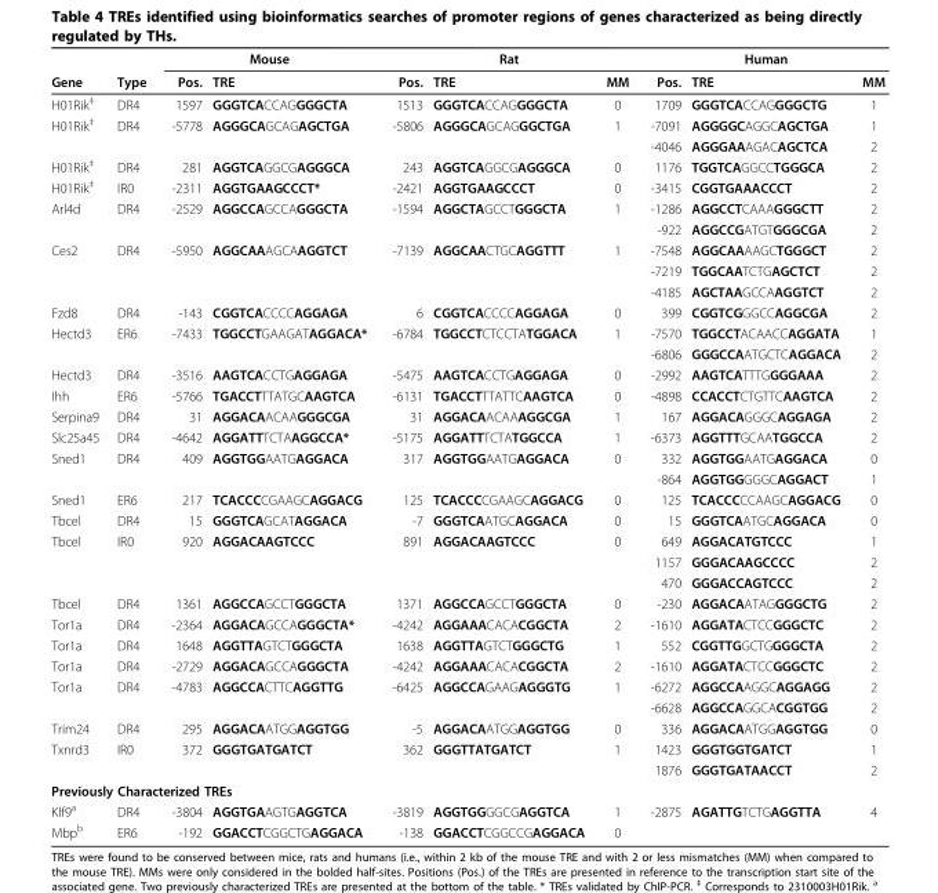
<table><thead><tr><td rowspan="2">Gene</td><td rowspan="2">Type</td><td colspan="2">Mouse</td><td colspan="3">Rat</td><td colspan="3">Human</td></tr><tr><td>Pos.</td><td>TRE</td><td>Pos.</td><td>TRE</td><td>MM</td><td>Pos.</td><td>TRE</td><td>MM</td></tr></thead><tbody><tr><td>H01Rik<sup>‡</sup></td><td>DR4</td><td>1597</td><td>GGGTCACCAGGGGCTA</td><td>1513</td><td>GGGTCACCAGGGGCTA</td><td>0</td><td>1709</td><td>GGGTCACCAGGGGCTG</td><td>1</td></tr><tr><td rowspan="2">H01Rik<sup>‡</sup></td><td>DR4</td><td>-5778</td><td>AGGGCAGCAGAGCTGA</td><td>-5806</td><td>AGGGCAGCAGGGCTGA</td><td>1</td><td>-7091</td><td>AGGGGCAGGCAGCTGA</td><td>1</td></tr><tr><td></td><td></td><td></td><td></td><td></td><td></td><td>-4046</td><td>AGGGAAAGACAGCTCA</td><td>2</td></tr><tr><td>H01Rik<sup>‡</sup></td><td>DR4</td><td>281</td><td>AGGTCAGGCGAGGGCA</td><td>243</td><td>AGGTCAGGCGAGGGCA</td><td>0</td><td>1176</td><td>TGGTCAGGCCTGGGCA</td><td>2</td></tr><tr><td>H01Rik<sup>‡</sup></td><td>IR0</td><td>-2311</td><td>AGGTGAAGCCCT*</td><td>-2421</td><td>AGGTGAAGCCCT</td><td>0</td><td>-3415</td><td>CGGTGAAACCCT</td><td>2</td></tr><tr><td rowspan="2">Arl4d</td><td>DR4</td><td>-2529</td><td>AGGCCAGCCAGGGCTA</td><td>-1594</td><td>AGGCTAGCCTGGGCTA</td><td>1</td><td>-1286</td><td>AGGCCTCAAAGGGCTT</td><td>2</td></tr><tr><td></td><td></td><td></td><td></td><td></td><td></td><td>-922</td><td>AGGCCGATGTGGGCGA</td><td>2</td></tr><tr><td rowspan="3">Ces2</td><td>DR4</td><td>-5950</td><td>AGGCAAAGCAAGGTCT</td><td>-7139</td><td>AGGCAACTGCAGGTTT</td><td>1</td><td>-7548</td><td>AGGCAAAAGCTGGGCT</td><td>2</td></tr><tr><td></td><td></td><td></td><td></td><td></td><td></td><td>-7219</td><td>TGGCAATCTGAGCTCT</td><td>2</td></tr><tr><td></td><td></td><td></td><td></td><td></td><td></td><td>-4185</td><td>AGCTAAGCCAAGGTCT</td><td>2</td></tr><tr><td>Fzd8</td><td>DR4</td><td>-143</td><td>CGGTCACCCCAGGAGA</td><td>6</td><td>CGGTCACCCCAGGAGA</td><td>0</td><td>399</td><td>CGGTCGGGCCAGGCGA</td><td>2</td></tr><tr><td rowspan="2">Hectd3</td><td>ER6</td><td>-7433</td><td>TGGCCTGAAGATAGGACA*</td><td>-6784</td><td>TGGCCTCTCCTATGGACA</td><td>1</td><td>-7570</td><td>TGGCCTACAACCAGGATA</td><td>1</td></tr><tr><td></td><td></td><td></td><td></td><td></td><td></td><td>-6806</td><td>GGGCCAATGCTCAGGACA</td><td>2</td></tr><tr><td>Hectd3</td><td>DR4</td><td>-3516</td><td>AAGTCACCTGAGGAGA</td><td>-5475</td><td>AAGTCACCTGAGGAGA</td><td>0</td><td>-2992</td><td>AAGTCATTTGGGGAAA</td><td>2</td></tr><tr><td>Ihh</td><td>ER6</td><td>-5766</td><td>TGACCTTTATGCAAGTCA</td><td>-6131</td><td>TGACCTTTATTCAAGTCA</td><td>0</td><td>-4898</td><td>CCACCTCTGTTCAAGTCA</td><td>2</td></tr><tr><td>Serpina9</td><td>DR4</td><td>31</td><td>AGGACAACAAGGGCGA</td><td>31</td><td>AGGACAACAAAGGCGA</td><td>1</td><td>167</td><td>AGGACAGGGCAGGAGA</td><td>2</td></tr><tr><td>Slc25a45</td><td>DR4</td><td>-4642</td><td>AGGATTTCTAAGGCCA*</td><td>-5175</td><td>AGGATTTCTATGGCCA</td><td>1</td><td>-6373</td><td>AGGTTTGCAATGGCCA</td><td>2</td></tr><tr><td rowspan="2">Sned1</td><td>DR4</td><td>409</td><td>AGGTGGAATGAGGACA</td><td>317</td><td>AGGTGGAATGAGGACA</td><td>0</td><td>332</td><td>AGGTGGAATGAGGACA</td><td>0</td></tr><tr><td></td><td></td><td></td><td></td><td></td><td></td><td>-864</td><td>AGGTGGGGGCAGGACT</td><td>1</td></tr><tr><td>Sned1</td><td>ER6</td><td>217</td><td>TCACCCCGAAGCAGGACG</td><td>125</td><td>TCACCCCGAAGCAGGACG</td><td>0</td><td>125</td><td>TCACCCCCAAGCAGGACG</td><td>0</td></tr><tr><td>Tbcel</td><td>DR4</td><td>15</td><td>GGGTCAGCATAGGACA</td><td>-7</td><td>GGGTCAATGCAGGACA</td><td>0</td><td>15</td><td>GGGTCAATGCAGGACA</td><td>0</td></tr><tr><td rowspan="3">Tbcel</td><td>IR0</td><td>920</td><td>AGGACAAGTCCC</td><td>891</td><td>AGGACAAGTCCC</td><td>0</td><td>649</td><td>AGGACATGTCCC</td><td>1</td></tr><tr><td></td><td></td><td></td><td></td><td></td><td></td><td>1157</td><td>GGGACAAGCCCC</td><td>2</td></tr><tr><td></td><td></td><td></td><td></td><td></td><td></td><td>470</td><td>GGGACCAGTCCC</td><td>2</td></tr><tr><td>Tbcel</td><td>DR4</td><td>1361</td><td>AGGCCAGCCTGGGCTA</td><td>1371</td><td>AGGCCAGCCTGGGCTA</td><td>0</td><td>-230</td><td>AGGACAATAGGGGCTG</td><td>2</td></tr><tr><td>Tor1a</td><td>DR4</td><td>-2364</td><td>AGGACAGCCAGGGCTA*</td><td>-4242</td><td>AGGAAACACACGGCTA</td><td>2</td><td>-1610</td><td>AGGATACTCCGGGCTC</td><td>2</td></tr><tr><td>Tor1a</td><td>DR4</td><td>1648</td><td>AGGTTAGTCTGGGCTA</td><td>1638</td><td>AGGTTAGTCTGGGCTG</td><td>1</td><td>552</td><td>CGGTTGGCTGGGGCTA</td><td>2</td></tr><tr><td>Tor1a</td><td>DR4</td><td>-2729</td><td>AGGACAGCCAGGGCTA</td><td>-4242</td><td>AGGAAACACACGGCTA</td><td>2</td><td>-1610</td><td>AGGATACTCCGGGCTC</td><td>2</td></tr><tr><td rowspan="2">Tor1a</td><td>DR4</td><td>-4783</td><td>AGGCCACTTCAGGTTG</td><td>-6425</td><td>AGGCCAGAAGAGGGTG</td><td>1</td><td>-6272</td><td>AGGCCAAGGCAGGAGG</td><td>2</td></tr><tr><td></td><td></td><td></td><td></td><td></td><td></td><td>-6628</td><td>AGGCCAGGCACGGTGG</td><td>2</td></tr><tr><td>Trim24</td><td>DR4</td><td>295</td><td>AGGACAATGGAGGTGG</td><td>-5</td><td>AGGACAATGGAGGTGG</td><td>0</td><td>336</td><td>AGGACAATGGAGGTGG</td><td>0</td></tr><tr><td rowspan="2">Txnrd3</td><td>IR0</td><td>372</td><td>GGGTGATGATCT</td><td>362</td><td>GGGTTATGATCT</td><td>1</td><td>1423</td><td>GGGTGGTGATCT</td><td>1</td></tr><tr><td></td><td></td><td></td><td></td><td></td><td></td><td>1876</td><td>GGGTGATAACCT</td><td>2</td></tr><tr><td colspan="10">Previously Characterized TREs</td></tr><tr><td>Klf9<sup>a</sup></td><td>DR4</td><td>-3804</td><td>AGGTGAAGTGAGGTCA</td><td>-3819</td><td>AGGTGGGGCGAGGTCA</td><td>1</td><td>-2875</td><td>AGATTGTCTGAGGTTA</td><td>4</td></tr><tr><td>Mbp<sup>b</sup></td><td>ER6</td><td>-192</td><td>GGACCTCGGCTGAGGACA</td><td>-138</td><td>GGACCTCGGCCGAGGACA</td><td>0</td><td></td><td></td><td></td></tr></tbody></table>